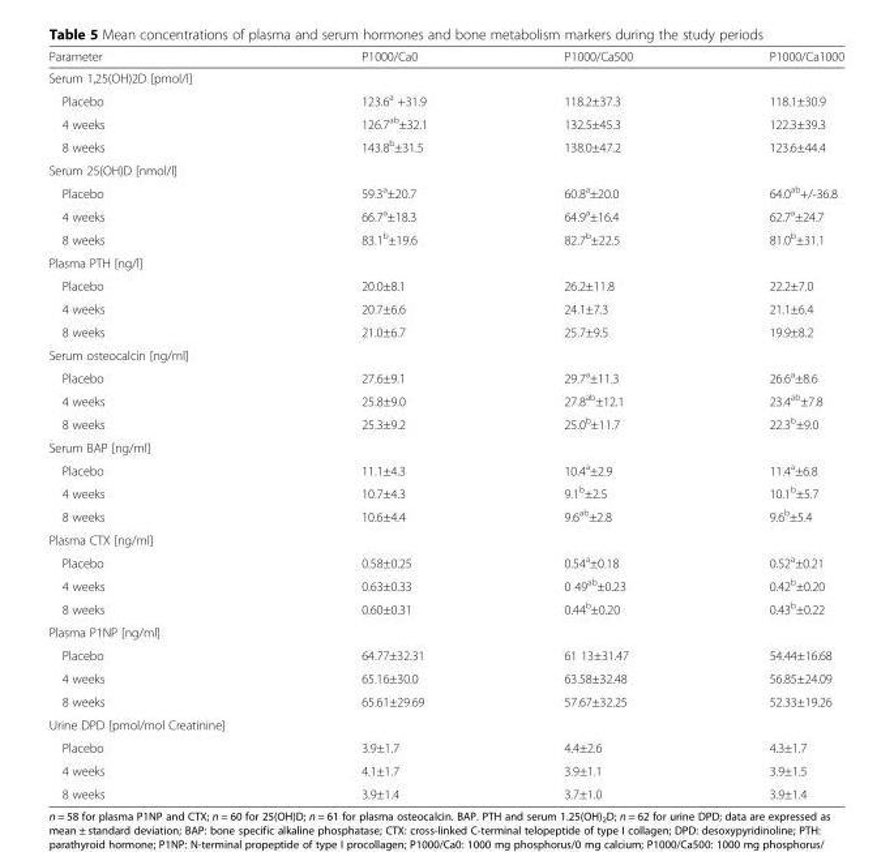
<table><thead><tr><td>Parameter</td><td>P1000/Ca0</td><td>P1000/Ca500</td><td>P1000/Ca1000</td></tr></thead><tbody><tr><td colspan="4">Serum 1,25(OH)2D [pmol/l]</td></tr><tr><td>Placebo</td><td>123.6<sup>a</sup> +31.9</td><td>118.2±37.3</td><td>118.1±30.9</td></tr><tr><td>4 weeks</td><td>126.7<sup>ab</sup>±32.1</td><td>132.5±45.3</td><td>122.3±39.3</td></tr><tr><td>8 weeks</td><td>143.8<sup>b</sup>±31.5</td><td>138.0±47.2</td><td>123.6±44.4</td></tr><tr><td colspan="4">Serum 25(OH)D [nmol/l]</td></tr><tr><td>Placebo</td><td>59.3<sup>a</sup>±20.7</td><td>60.8<sup>a</sup>±20.0</td><td>64.0<sup>ab</sup>+/-36.8</td></tr><tr><td>4 weeks</td><td>66.7<sup>a</sup>±18.3</td><td>64.9<sup>a</sup>±16.4</td><td>62.7<sup>a</sup>±24.7</td></tr><tr><td>8 weeks</td><td>83.1<sup>b</sup>±19.6</td><td>82.7<sup>b</sup>±22.5</td><td>81.0<sup>b</sup>±31.1</td></tr><tr><td colspan="4">Plasma PTH [ng/l]</td></tr><tr><td>Placebo</td><td>20.0±8.1</td><td>26.2±11.8</td><td>22.2±7.0</td></tr><tr><td>4 weeks</td><td>20.7±6.6</td><td>24.1±7.3</td><td>21.1±6.4</td></tr><tr><td>8 weeks</td><td>21.0±6.7</td><td>25.7±9.5</td><td>19.9±8.2</td></tr><tr><td colspan="4">Serum osteocalcin [ng/ml]</td></tr><tr><td>Placebo</td><td>27.6±9.1</td><td>29.7<sup>a</sup>±11.3</td><td>26.6<sup>a</sup>±8.6</td></tr><tr><td>4 weeks</td><td>25.8±9.0</td><td>27.8<sup>ab</sup>±12.1</td><td>23.4<sup>ab</sup>±7.8</td></tr><tr><td>8 weeks</td><td>25.3±9.2</td><td>25.0<sup>b</sup>±11.7</td><td>22.3<sup>b</sup>±9.0</td></tr><tr><td colspan="4">Serum BAP [ng/ml]</td></tr><tr><td>Placebo</td><td>11.1±4.3</td><td>10.4<sup>a</sup>±2.9</td><td>11.4<sup>a</sup>±6.8</td></tr><tr><td>4 weeks</td><td>10.7±4.3</td><td>9.1<sup>b</sup>±2.5</td><td>10.1<sup>b</sup>±5.7</td></tr><tr><td>8 weeks</td><td>10.6±4.4</td><td>9.6<sup>ab</sup>±2.8</td><td>9.6<sup>b</sup>±5.4</td></tr><tr><td colspan="4">Plasma CTX [ng/ml]</td></tr><tr><td>Placebo</td><td>0.58±0.25</td><td>0.54<sup>a</sup>±0.18</td><td>0.52<sup>a</sup>±0.21</td></tr><tr><td>4 weeks</td><td>0.63±0.33</td><td>0 49<sup>ab</sup>±0.23</td><td>0.42<sup>b</sup>±0.20</td></tr><tr><td>8 weeks</td><td>0.60±0.31</td><td>0.44<sup>b</sup>±0.20</td><td>0.43<sup>b</sup>±0.22</td></tr><tr><td colspan="4">Plasma P1NP [ng/ml]</td></tr><tr><td>Placebo</td><td>64.77±32.31</td><td>61 13±31.47</td><td>54.44±16.68</td></tr><tr><td>4 weeks</td><td>65.16±30.0</td><td>63.58±32.48</td><td>56.85±24.09</td></tr><tr><td>8 weeks</td><td>65.61±29.69</td><td>57.67±32.25</td><td>52.33±19.26</td></tr><tr><td colspan="4">Urine DPD [pmol/mol Creatinine]</td></tr><tr><td>Placebo</td><td>3.9±1.7</td><td>4.4±2.6</td><td>4.3±1.7</td></tr><tr><td>4 weeks</td><td>4.1±1.7</td><td>3.9±1.1</td><td>3.9±1.5</td></tr><tr><td>8 weeks</td><td>3.9±1.4</td><td>3.7±1.0</td><td>3.9±1.4</td></tr></tbody></table>